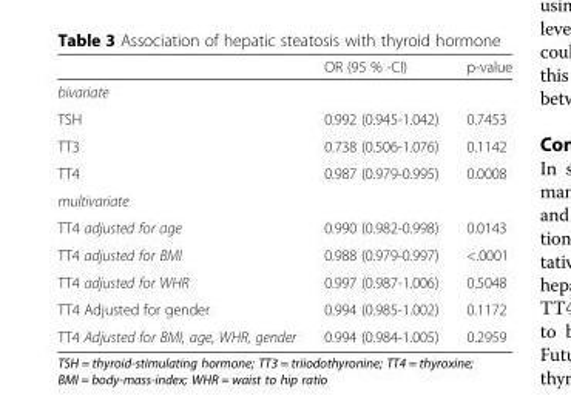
<table><thead><tr><td></td><td>OR (95 % -CI)</td><td>p-value</td></tr></thead><tbody><tr><td colspan="3">bivariate</td></tr><tr><td>TSH</td><td>0.992 (0.945-1.042)</td><td>0.7453</td></tr><tr><td>TT3</td><td>0.738 (0.506-1.076)</td><td>0.1142</td></tr><tr><td>TT4</td><td>0.987 (0.979-0.995)</td><td>0.0008</td></tr><tr><td colspan="3">multivariate</td></tr><tr><td>TT4 adjusted for age</td><td>0.990 (0.982-0.998)</td><td>0.0143</td></tr><tr><td>TT4 adjusted for BMI</td><td>0.988 (0.979-0.997)</td><td>&lt;.0001</td></tr><tr><td>TT4 adjusted for WHR</td><td>0.997 (0.987-1.006)</td><td>0.5048</td></tr><tr><td>TT4 Adjusted for gender</td><td>0.994 (0.985-1.002)</td><td>0.1172</td></tr><tr><td>TT4 Adjusted for BMI, age, WHR, gender</td><td>0.994 (0.984-1.005)</td><td>0.2959</td></tr></tbody></table>